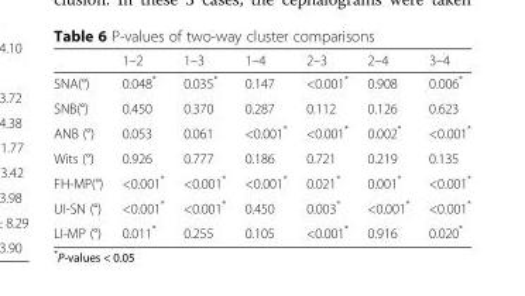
<table><thead><tr><td></td><td>1–2</td><td>1–3</td><td>1–4</td><td>2–3</td><td>2–4</td><td>3–4</td></tr></thead><tbody><tr><td>SNA(°)</td><td>0.048*</td><td>0.035*</td><td>0.147</td><td>&lt;0.001*</td><td>0.908</td><td>0.006*</td></tr><tr><td>SNB(°)</td><td>0.450</td><td>0.370</td><td>0.287</td><td>0.112</td><td>0.126</td><td>0.623</td></tr><tr><td>ANB (°)</td><td>0.053</td><td>0.061</td><td>&lt;0.001*</td><td>&lt;0.001*</td><td>0.002*</td><td>&lt;0.001*</td></tr><tr><td>Wits (°)</td><td>0.926</td><td>0.777</td><td>0.186</td><td>0.721</td><td>0.219</td><td>0.135</td></tr><tr><td>FH-MP(°)</td><td>&lt;0.001*</td><td>&lt;0.001*</td><td>&lt;0.001*</td><td>0.021*</td><td>0.001*</td><td>&lt;0.001*</td></tr><tr><td>UI-SN (°)</td><td>&lt;0.001*</td><td>&lt;0.001*</td><td>0.450</td><td>0.003*</td><td>&lt;0.001*</td><td>&lt;0.001*</td></tr><tr><td>LI-MP (°)</td><td>0.011*</td><td>0.255</td><td>0.105</td><td>&lt;0.001*</td><td>0.916</td><td>0.020*</td></tr></tbody></table>